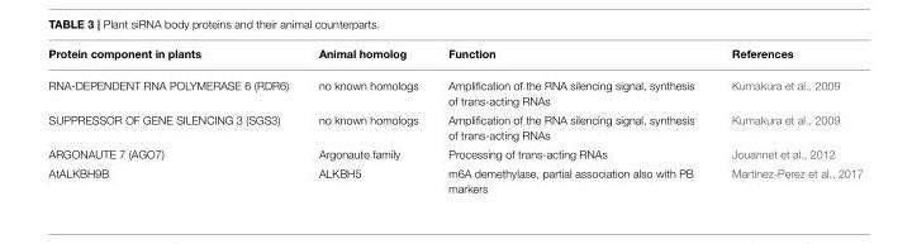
<table><thead><tr><td>Protein component in plants</td><td>Animal homolog</td><td>Function</td><td>References</td></tr></thead><tbody><tr><td>RNA-DEPENDENT RNA POLYMERASE 6 (RDR6)</td><td>no known homologs</td><td>Amplification of the RNA silencing signal, synthesis of trans-acting RNAs</td><td>Kumakura et al., 2009</td></tr><tr><td>SUPPRESSOR OF GENE SILENCING 3 (SGS3)</td><td>no known homologs</td><td>Amplification of the RNA silencing signal, synthesis of trans-acting RNAs</td><td>Kumakura et al., 2009</td></tr><tr><td>ARGONAUTE 7 (AGO7)</td><td>Argonaute family</td><td>Processing of trans-acting RNAs</td><td>Jouannet et al., 2012</td></tr><tr><td>AtALKBH9B</td><td>ALKBH5</td><td>m6A demethylase, partial association also with PB markers</td><td>Martinez-Perez et al., 2017</td></tr></tbody></table>